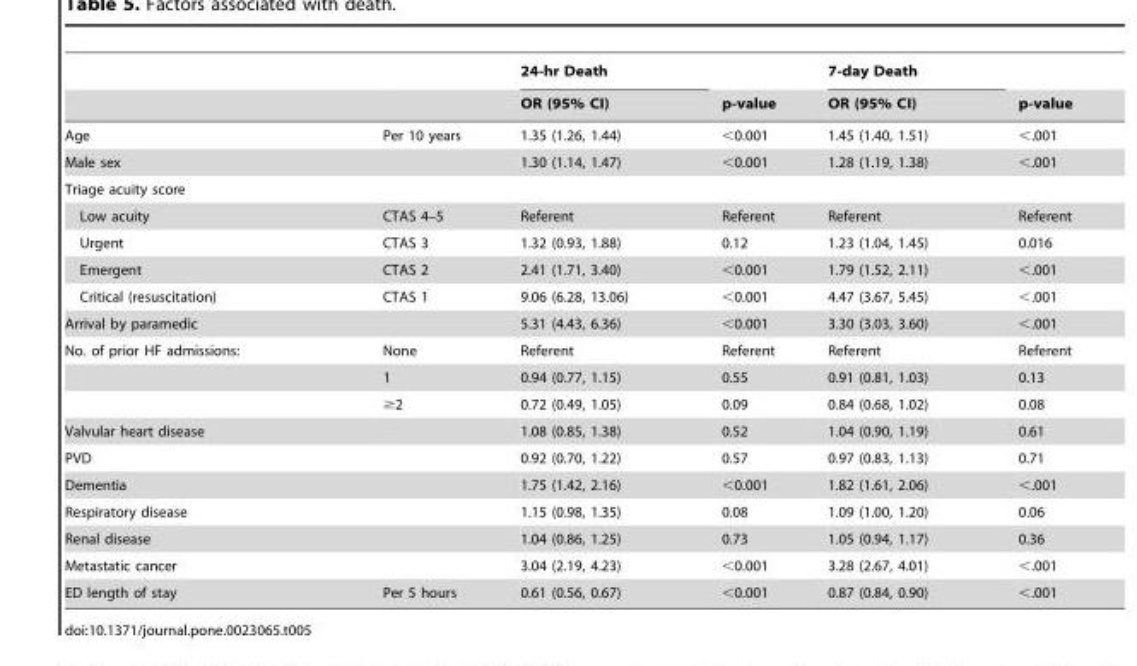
<table><thead><tr><td rowspan="2"></td><td rowspan="2"></td><td rowspan="2">24-hr Death OR (95% CI)</td><td rowspan="2">p-value</td><td rowspan="2">7-day Death OR (95% CI)</td><td rowspan="2">p-value</td></tr><tr></tr></thead><tbody><tr><td>Age</td><td>Per 10 years</td><td>1.35 (1.26, 1.44)</td><td>&lt;0.001</td><td>1.45 (1.40, 1.51)</td><td>&lt;.001</td></tr><tr><td>Male sex</td><td></td><td>1.30 (1.14, 1.47)</td><td>&lt;0.001</td><td>1.28 (1.19, 1.38)</td><td>&lt;.001</td></tr><tr><td colspan="6">Triage acuity score</td></tr><tr><td>Low acuity</td><td>CTAS 4–5</td><td>Referent</td><td>Referent</td><td>Referent</td><td>Referent</td></tr><tr><td>Urgent</td><td>CTAS 3</td><td>1.32 (0.93, 1.88)</td><td>0.12</td><td>1.23 (1.04, 1.45)</td><td>0.016</td></tr><tr><td>Emergent</td><td>CTAS 2</td><td>2.41 (1.71, 3.40)</td><td>&lt;0.001</td><td>1.79 (1.52, 2.11)</td><td>&lt;.001</td></tr><tr><td>Critical (resuscitation)</td><td>CTAS 1</td><td>9.06 (6.28, 13.06)</td><td>&lt;0.001</td><td>4.47 (3.67, 5.45)</td><td>&lt;.001</td></tr><tr><td>Arrival by paramedic</td><td></td><td>5.31 (4.43, 6.36)</td><td>&lt;0.001</td><td>3.30 (3.03, 3.60)</td><td>&lt;.001</td></tr><tr><td rowspan="3">No. of prior HF admissions:</td><td>None</td><td>Referent</td><td>Referent</td><td>Referent</td><td>Referent</td></tr><tr><td>1</td><td>0.94 (0.77, 1.15)</td><td>0.55</td><td>0.91 (0.81, 1.03)</td><td>0.13</td></tr><tr><td>≥2</td><td>0.72 (0.49, 1.05)</td><td>0.09</td><td>0.84 (0.68, 1.02)</td><td>0.08</td></tr><tr><td>Valvular heart disease</td><td></td><td>1.08 (0.85, 1.38)</td><td>0.52</td><td>1.04 (0.90, 1.19)</td><td>0.61</td></tr><tr><td>PVD</td><td></td><td>0.92 (0.70, 1.22)</td><td>0.57</td><td>0.97 (0.83, 1.13)</td><td>0.71</td></tr><tr><td>Dementia</td><td></td><td>1.75 (1.42, 2.16)</td><td>&lt;0.001</td><td>1.82 (1.61, 2.06)</td><td>&lt;.001</td></tr><tr><td>Respiratory disease</td><td></td><td>1.15 (0.98, 1.35)</td><td>0.08</td><td>1.09 (1.00, 1.20)</td><td>0.06</td></tr><tr><td>Renal disease</td><td></td><td>1.04 (0.86, 1.25)</td><td>0.73</td><td>1.05 (0.94, 1.17)</td><td>0.36</td></tr><tr><td>Metastatic cancer</td><td></td><td>3.04 (2.19, 4.23)</td><td>&lt;0.001</td><td>3.28 (2.67, 4.01)</td><td>&lt;.001</td></tr><tr><td>ED length of stay</td><td>Per 5 hours</td><td>0.61 (0.56, 0.67)</td><td>&lt;0.001</td><td>0.87 (0.84, 0.90)</td><td>&lt;.001</td></tr></tbody></table>